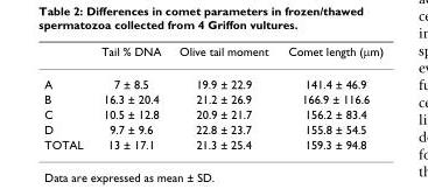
<table><thead><tr><td></td><td>Tail % DNA</td><td>Olive tail moment</td><td>Comet length (μm)</td></tr></thead><tbody><tr><td>A</td><td>7 ± 8.5</td><td>19.9 ± 22.9</td><td>141.4 ± 46.9</td></tr><tr><td>B</td><td>16.3 ± 20.4</td><td>21.2 ± 26.9</td><td>166.9 ± 116.6</td></tr><tr><td>C</td><td>10.5 ± 12.8</td><td>20.9 ± 21.7</td><td>156.2 ± 83.4</td></tr><tr><td>D</td><td>9.7 ± 9.6</td><td>22.8 ± 23.7</td><td>155.8 ± 54.5</td></tr><tr><td>TOTAL</td><td>13 ± 17.1</td><td>21.3 ± 25.4</td><td>159.3 ± 94.8</td></tr></tbody></table>